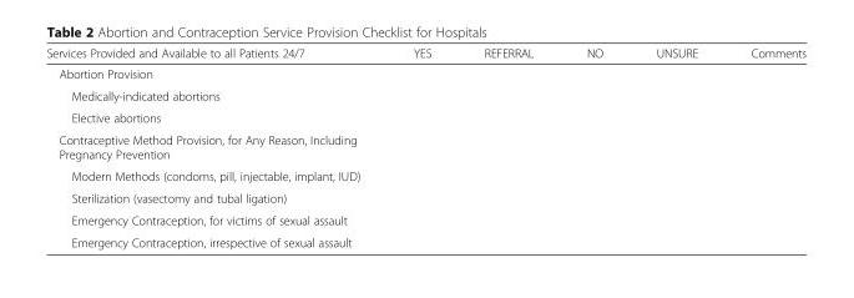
<table><thead><tr><td>Services Provided and Available to all Patients 24/7</td><td>YES</td><td>REFERRAL</td><td>NO</td><td>UNSURE</td><td>Comments</td></tr></thead><tbody><tr><td colspan="6">Abortion Provision</td></tr><tr><td colspan="6">Medically-indicated abortions</td></tr><tr><td colspan="6">Elective abortions</td></tr><tr><td colspan="6">Contraceptive Method Provision, for Any Reason, Including Pregnancy Prevention</td></tr><tr><td colspan="6">Modern Methods (condoms, pill, injectable, implant, IUD)</td></tr><tr><td colspan="6">Sterilization (vasectomy and tubal ligation)</td></tr><tr><td colspan="6">Emergency Contraception, for victims of sexual assault</td></tr><tr><td>Emergency Contraception, irrespective of sexual assault</td><td></td><td></td><td></td><td></td><td></td></tr></tbody></table>